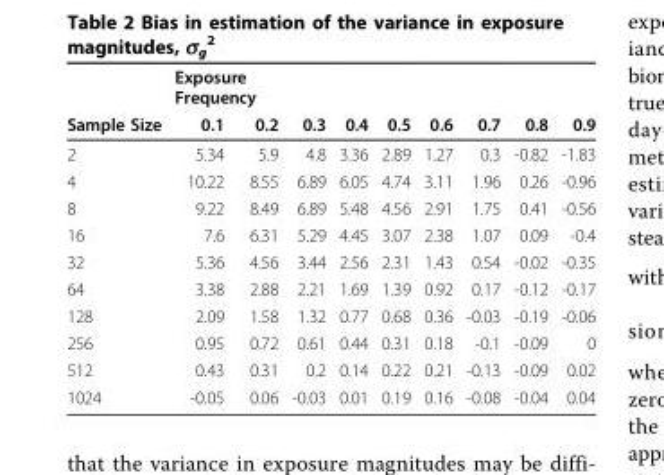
<table><thead><tr><td rowspan="2">Sample Size</td><td colspan="2">Exposure Frequency</td><td rowspan="2">0.3</td><td rowspan="2">0.4</td><td rowspan="2">0.5</td><td rowspan="2">0.6</td><td rowspan="2">0.7</td><td rowspan="2">0.8</td><td rowspan="2">0.9</td></tr><tr><td>0.1</td><td>0.2</td></tr></thead><tbody><tr><td>2</td><td>5.34</td><td>5.9</td><td>4.8</td><td>3.36</td><td>2.89</td><td>1.27</td><td>0.3</td><td>-0.82</td><td>-1.83</td></tr><tr><td>4</td><td>10.22</td><td>8.55</td><td>6.89</td><td>6.05</td><td>4.74</td><td>3.11</td><td>1.96</td><td>0.26</td><td>-0.96</td></tr><tr><td>8</td><td>9.22</td><td>8.49</td><td>6.89</td><td>5.48</td><td>4.56</td><td>2.91</td><td>1.75</td><td>0.41</td><td>-0.56</td></tr><tr><td>16</td><td>7.6</td><td>6.31</td><td>5.29</td><td>4.45</td><td>3.07</td><td>2.38</td><td>1.07</td><td>0.09</td><td>-0.4</td></tr><tr><td>32</td><td>5.36</td><td>4.56</td><td>3.44</td><td>2.56</td><td>2.31</td><td>1.43</td><td>0.54</td><td>-0.02</td><td>-0.35</td></tr><tr><td>64</td><td>3.38</td><td>2.88</td><td>2.21</td><td>1.69</td><td>1.39</td><td>0.92</td><td>0.17</td><td>-0.12</td><td>-0.17</td></tr><tr><td>128</td><td>2.09</td><td>1.58</td><td>1.32</td><td>0.77</td><td>0.68</td><td>0.36</td><td>-0.03</td><td>-0.19</td><td>-0.06</td></tr><tr><td>256</td><td>0.95</td><td>0.72</td><td>0.61</td><td>0.44</td><td>0.31</td><td>0.18</td><td>-0.1</td><td>-0.09</td><td>0</td></tr><tr><td>512</td><td>0.43</td><td>0.31</td><td>0.2</td><td>0.14</td><td>0.22</td><td>0.21</td><td>-0.13</td><td>-0.09</td><td>0.02</td></tr><tr><td>1024</td><td>-0.05</td><td>0.06</td><td>-0.03</td><td>0.01</td><td>0.19</td><td>0.16</td><td>-0.08</td><td>-0.04</td><td>0.04</td></tr></tbody></table>